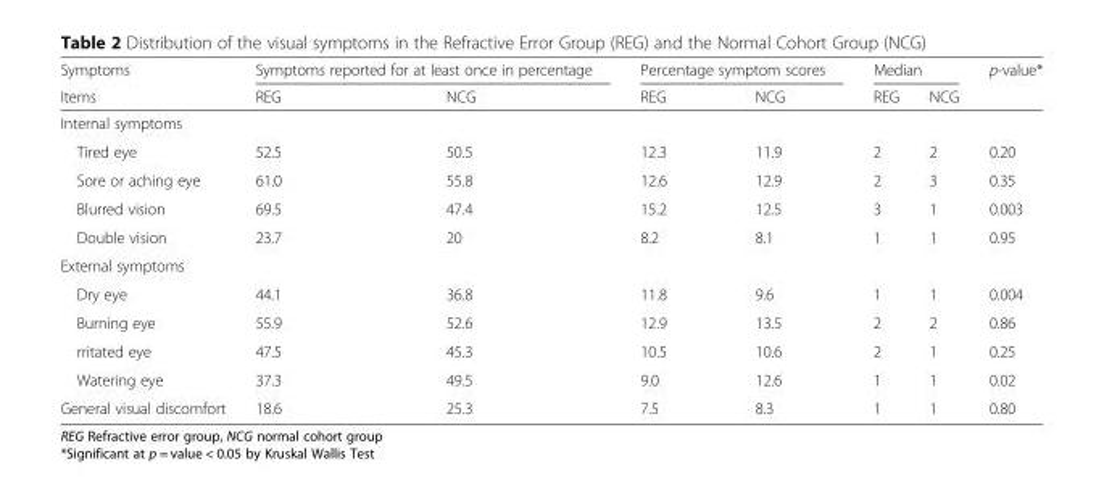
<table><thead><tr><td rowspan="2">Symptoms Items</td><td colspan="2">Symptoms reported for at least once in percentage</td><td colspan="2">Percentage symptom scores</td><td colspan="2">Median</td><td rowspan="2">p-value*</td></tr><tr><td>REG</td><td>NCG</td><td>REG</td><td>NCG</td><td>REG</td><td>NCG</td></tr></thead><tbody><tr><td colspan="8">Internal symptoms</td></tr><tr><td>Tired eye</td><td>52.5</td><td>50.5</td><td>12.3</td><td>11.9</td><td>2</td><td>2</td><td>0.20</td></tr><tr><td>Sore or aching eye</td><td>61.0</td><td>55.8</td><td>12.6</td><td>12.9</td><td>2</td><td>3</td><td>0.35</td></tr><tr><td>Blurred vision</td><td>69.5</td><td>47.4</td><td>15.2</td><td>12.5</td><td>3</td><td>1</td><td>0.003</td></tr><tr><td>Double vision</td><td>23.7</td><td>20</td><td>8.2</td><td>8.1</td><td>1</td><td>1</td><td>0.95</td></tr><tr><td colspan="8">External symptoms</td></tr><tr><td>Dry eye</td><td>44.1</td><td>36.8</td><td>11.8</td><td>9.6</td><td>1</td><td>1</td><td>0.004</td></tr><tr><td>Burning eye</td><td>55.9</td><td>52.6</td><td>12.9</td><td>13.5</td><td>2</td><td>2</td><td>0.86</td></tr><tr><td>rritated eye</td><td>47.5</td><td>45.3</td><td>10.5</td><td>10.6</td><td>2</td><td>1</td><td>0.25</td></tr><tr><td>Watering eye</td><td>37.3</td><td>49.5</td><td>9.0</td><td>12.6</td><td>1</td><td>1</td><td>0.02</td></tr><tr><td>General visual discomfort</td><td>18.6</td><td>25.3</td><td>7.5</td><td>8.3</td><td>1</td><td>1</td><td>0.80</td></tr></tbody></table>